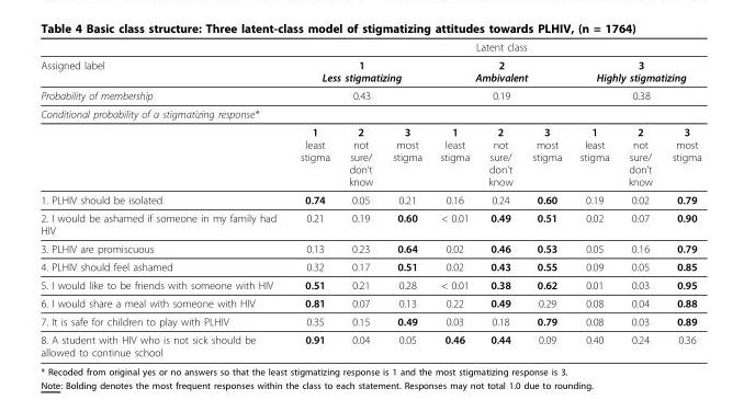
<table><thead><tr><td></td><td colspan="9">Latent class</td></tr></thead><tbody><tr><td>Assigned label</td><td colspan="3">1 Less stigmatizing</td><td colspan="3">2 Ambivalent</td><td colspan="3">3 Highly stigmatizing</td></tr><tr><td>Probability of membership</td><td colspan="3">0.43</td><td colspan="3">0.19</td><td colspan="3">0.38</td></tr><tr><td colspan="10">Conditional probability of a stigmatizing response*</td></tr><tr><td></td><td>1 least stigma</td><td>2 not sure/ don’t know</td><td>3 most stigma</td><td>1 least stigma</td><td>2 not sure/ don’t know</td><td>3 most stigma</td><td>1 least stigma</td><td>2 not sure/ don’t know</td><td>3 most stigma</td></tr><tr><td>1. PLHIV should be isolated</td><td>0.74</td><td>0.05</td><td>0.21</td><td>0.16</td><td>0.24</td><td>0.60</td><td>0.19</td><td>0.02</td><td>0.79</td></tr><tr><td>2. I would be ashamed if someone in my family had HIV</td><td>0.21</td><td>0.19</td><td>0.60</td><td>&lt; 0.01</td><td>0.49</td><td>0.51</td><td>0.02</td><td>0.07</td><td>0.90</td></tr><tr><td>3. PLHIV are promiscuous</td><td>0.13</td><td>0.23</td><td>0.64</td><td>0.02</td><td>0.46</td><td>0.53</td><td>0.05</td><td>0.16</td><td>0.79</td></tr><tr><td>4. PLHIV should feel ashamed</td><td>0.32</td><td>0.17</td><td>0.51</td><td>0.02</td><td>0.43</td><td>0.55</td><td>0.09</td><td>0.05</td><td>0.85</td></tr><tr><td>5. I would like to be friends with someone with HIV</td><td>0.51</td><td>0.21</td><td>0.28</td><td>&lt; 0.01</td><td>0.38</td><td>0.62</td><td>0.01</td><td>0.03</td><td>0.95</td></tr><tr><td>6. I would share a meal with someone with HIV</td><td>0.81</td><td>0.07</td><td>0.13</td><td>0.22</td><td>0.49</td><td>0.29</td><td>0.08</td><td>0.04</td><td>0.88</td></tr><tr><td>7. It is safe for children to play with PLHIV</td><td>0.35</td><td>0.15</td><td>0.49</td><td>0.03</td><td>0.18</td><td>0.79</td><td>0.08</td><td>0.03</td><td>0.89</td></tr><tr><td>8. A student with HIV who is not sick should be allowed to continue school</td><td>0.91</td><td>0.04</td><td>0.05</td><td>0.46</td><td>0.44</td><td>0.09</td><td>0.40</td><td>0.24</td><td>0.36</td></tr></tbody></table>